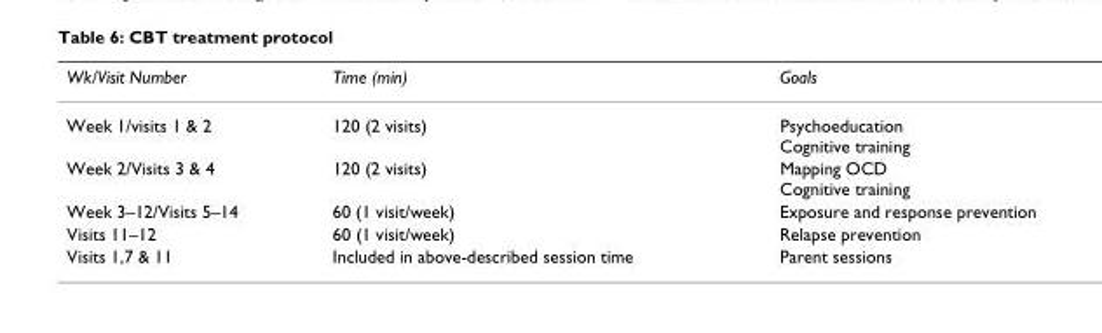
<table><thead><tr><td>Wk/Visit Number</td><td>Time (min)</td><td>Goals</td></tr></thead><tbody><tr><td>Week 1/visits 1 &amp; 2</td><td>120 (2 visits)</td><td>Psychoeducation Cognitive training</td></tr><tr><td>Week 2/Visits 3 &amp; 4</td><td>120 (2 visits)</td><td>Mapping OCD Cognitive training</td></tr><tr><td>Week 3–12/Visits 5–14</td><td>60 (1 visit/week)</td><td>Exposure and response prevention</td></tr><tr><td>Visits 11–12</td><td>60 (1 visit/week)</td><td>Relapse prevention</td></tr><tr><td>Visits 1,7 &amp; 11</td><td>Included in above-described session time</td><td>Parent sessions</td></tr></tbody></table>